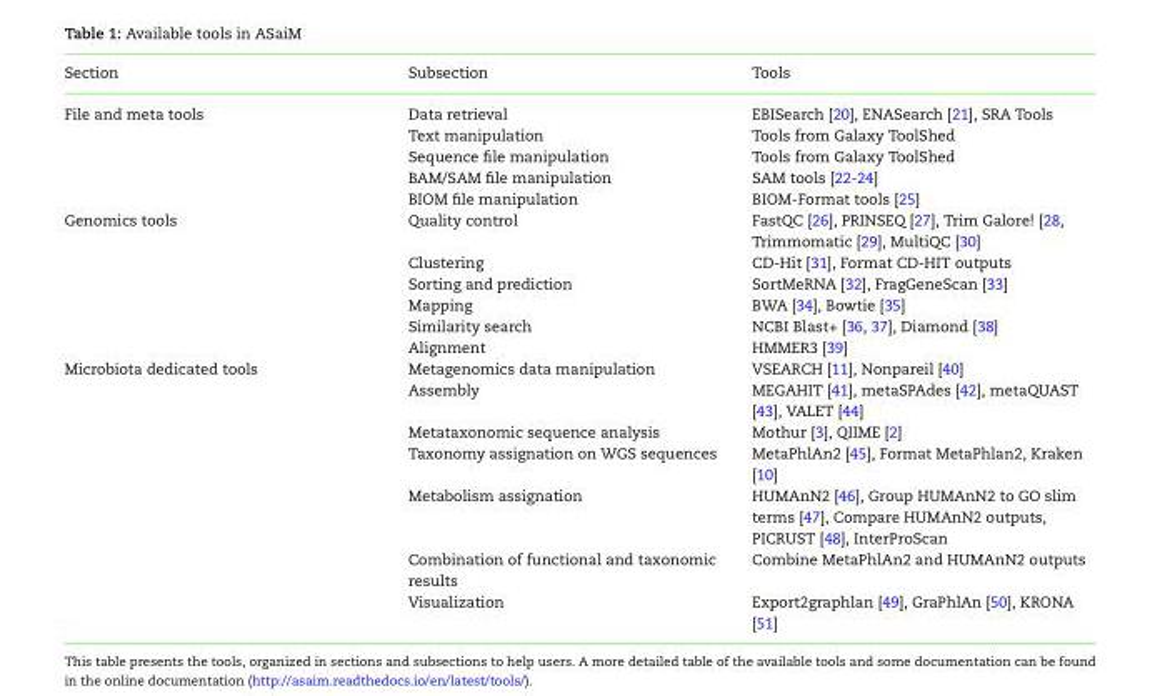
<table><thead><tr><td>Section</td><td>Subsection</td><td>Tools</td></tr></thead><tbody><tr><td rowspan="5">File and meta tools</td><td>Data retrieval</td><td>EBISearch [20], ENASearch [21], SRA Tools</td></tr><tr><td>Text manipulation</td><td>Tools from Galaxy ToolShed</td></tr><tr><td>Sequence file manipulation</td><td>Tools from Galaxy ToolShed</td></tr><tr><td>BAM/SAM file manipulation</td><td>SAM tools [22-24]</td></tr><tr><td>BIOM file manipulation</td><td>BIOM-Format tools [25]</td></tr><tr><td rowspan="6">Genomics tools</td><td>Quality control</td><td>FastQC [26], PRINSEQ [27], Trim Galore! [28, Trimmomatic [29], MultiQC [30]</td></tr><tr><td>Clustering</td><td>CD-Hit [31], Format CD-HIT outputs</td></tr><tr><td>Sorting and prediction</td><td>SortMeRNA [32], FragGeneScan [33]</td></tr><tr><td>Mapping</td><td>BWA [34], Bowtie [35]</td></tr><tr><td>Similarity search</td><td>NCBI Blast+ [36, 37], Diamond [38]</td></tr><tr><td>Alignment</td><td>HMMER3 [39]</td></tr><tr><td rowspan="7">Microbiota dedicated tools</td><td>Metagenomics data manipulation</td><td>VSEARCH [11], Nonpareil [40]</td></tr><tr><td>Assembly</td><td>MEGAHIT [41], metaSPAdes [42], metaQUAST [43], VALET [44]</td></tr><tr><td>Metataxonomic sequence analysis</td><td>Mothur [3], QIIME [2]</td></tr><tr><td>Taxonomy assignation on WGS sequences</td><td>MetaPhlAn2 [45], Format MetaPhlan2, Kraken [10]</td></tr><tr><td>Metabolism assignation</td><td>HUMAnN2 [46], Group HUMAnN2 to GO slim terms [47], Compare HUMAnN2 outputs, PICRUST [48], InterProScan</td></tr><tr><td>Combination of functional and taxonomic results</td><td>Combine MetaPhlAn2 and HUMAnN2 outputs</td></tr><tr><td>Visualization</td><td>Export2graphlan [49], GraPhlAn [50], KRONA [51]</td></tr></tbody></table>